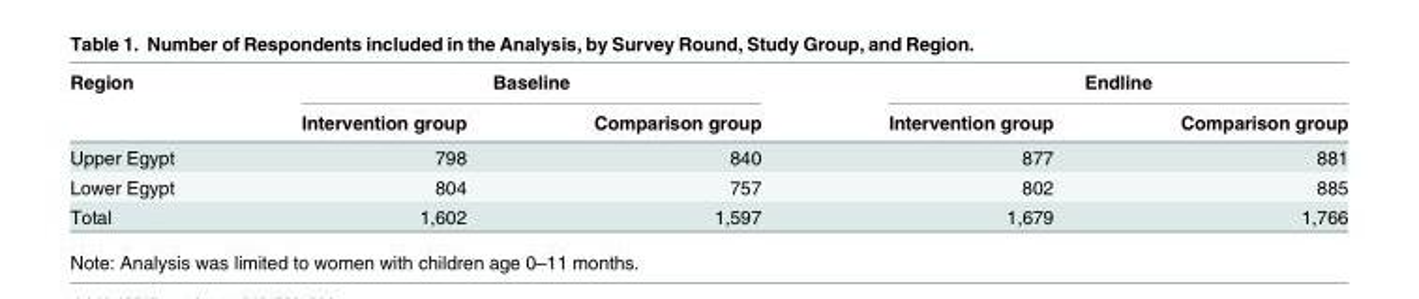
<table><thead><tr><td rowspan="2">Region</td><td colspan="2">Baseline</td><td colspan="2">Endline</td></tr><tr><td>Intervention group</td><td>Comparison group</td><td>Intervention group</td><td>Comparison group</td></tr></thead><tbody><tr><td>Upper Egypt</td><td>798</td><td>840</td><td>877</td><td>881</td></tr><tr><td>Lower Egypt</td><td>804</td><td>757</td><td>802</td><td>885</td></tr><tr><td>Total</td><td>1,602</td><td>1,597</td><td>1,679</td><td>1,766</td></tr></tbody></table>